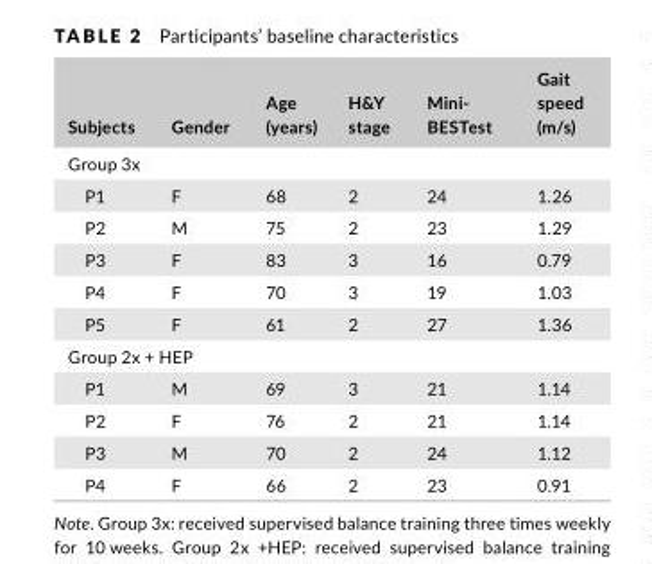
<table><thead><tr><td>Subjects</td><td>Gender</td><td>Age (years)</td><td>H&amp;Y stage</td><td>Mini- BESTest</td><td>Gait speed (m/s)</td></tr></thead><tbody><tr><td colspan="6">Group 3x</td></tr><tr><td>P1</td><td>F</td><td>68</td><td>2</td><td>24</td><td>1.26</td></tr><tr><td>P2</td><td>M</td><td>75</td><td>2</td><td>23</td><td>1.29</td></tr><tr><td>P3</td><td>F</td><td>83</td><td>3</td><td>16</td><td>0.79</td></tr><tr><td>P4</td><td>F</td><td>70</td><td>3</td><td>19</td><td>1.03</td></tr><tr><td>P5</td><td>F</td><td>61</td><td>2</td><td>27</td><td>1.36</td></tr><tr><td colspan="6">Group 2x + HEP</td></tr><tr><td>P1</td><td>M</td><td>69</td><td>3</td><td>21</td><td>1.14</td></tr><tr><td>P2</td><td>F</td><td>76</td><td>2</td><td>21</td><td>1.14</td></tr><tr><td>P3</td><td>M</td><td>70</td><td>2</td><td>24</td><td>1.12</td></tr><tr><td>P4</td><td>F</td><td>66</td><td>2</td><td>23</td><td>0.91</td></tr></tbody></table>